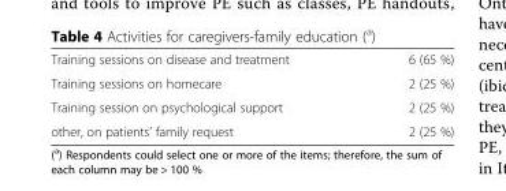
<table><tbody><tr><td>Training sessions on disease and treatment</td><td>6 (65 %)</td></tr><tr><td>Training sessions on homecare</td><td>2 (25 %)</td></tr><tr><td>Training session on psychological support</td><td>2 (25 %)</td></tr><tr><td>other, on patients’ family request</td><td>2 (25 %)</td></tr></tbody></table>